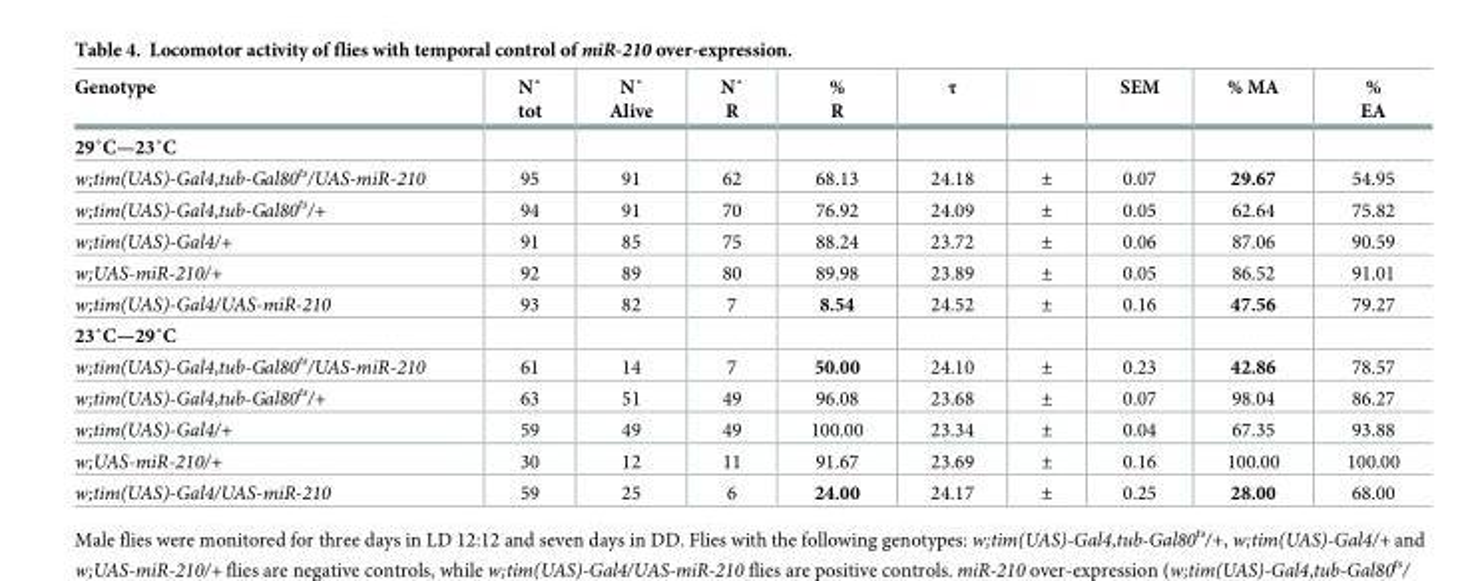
<table><thead><tr><td>Genotype</td><td>N˚ tot</td><td>N˚ Alive</td><td>N˚ R</td><td>% R</td><td>τ</td><td></td><td>SEM</td><td>% MA</td><td>% EA</td></tr></thead><tbody><tr><td colspan="10">29˚C—23˚C</td></tr><tr><td>w;tim(UAS)-Gal4,tub-Gal80<sup>ts</sup>/UAS-miR-210</td><td>95</td><td>91</td><td>62</td><td>68.13</td><td>24.18</td><td>±</td><td>0.07</td><td>29.67</td><td>54.95</td></tr><tr><td>w;tim(UAS)-Gal4,tub-Gal80<sup>ts</sup>/+</td><td>94</td><td>91</td><td>70</td><td>76.92</td><td>24.09</td><td>±</td><td>0.05</td><td>62.64</td><td>75.82</td></tr><tr><td>w;tim(UAS)-Gal4/+</td><td>91</td><td>85</td><td>75</td><td>88.24</td><td>23.72</td><td>±</td><td>0.06</td><td>87.06</td><td>90.59</td></tr><tr><td>w;UAS-miR-210/+</td><td>92</td><td>89</td><td>80</td><td>89.98</td><td>23.89</td><td>±</td><td>0.05</td><td>86.52</td><td>91.01</td></tr><tr><td>w;tim(UAS)-Gal4/UAS-miR-210</td><td>93</td><td>82</td><td>7</td><td>8.54</td><td>24.52</td><td>±</td><td>0.16</td><td>47.56</td><td>79.27</td></tr><tr><td colspan="10">23˚C—29˚C</td></tr><tr><td>w;tim(UAS)-Gal4,tub-Gal80<sup>ts</sup>/UAS-miR-210</td><td>61</td><td>14</td><td>7</td><td>50.00</td><td>24.10</td><td>±</td><td>0.23</td><td>42.86</td><td>78.57</td></tr><tr><td>w;tim(UAS)-Gal4,tub-Gal80<sup>ts</sup>/+</td><td>63</td><td>51</td><td>49</td><td>96.08</td><td>23.68</td><td>±</td><td>0.07</td><td>98.04</td><td>86.27</td></tr><tr><td>w;tim(UAS)-Gal4/+</td><td>59</td><td>49</td><td>49</td><td>100.00</td><td>23.34</td><td>±</td><td>0.04</td><td>67.35</td><td>93.88</td></tr><tr><td>w;UAS-miR-210/+</td><td>30</td><td>12</td><td>11</td><td>91.67</td><td>23.69</td><td>±</td><td>0.16</td><td>100.00</td><td>100.00</td></tr><tr><td>w;tim(UAS)-Gal4/UAS-miR-210</td><td>59</td><td>25</td><td>6</td><td>24.00</td><td>24.17</td><td>±</td><td>0.25</td><td>28.00</td><td>68.00</td></tr></tbody></table>